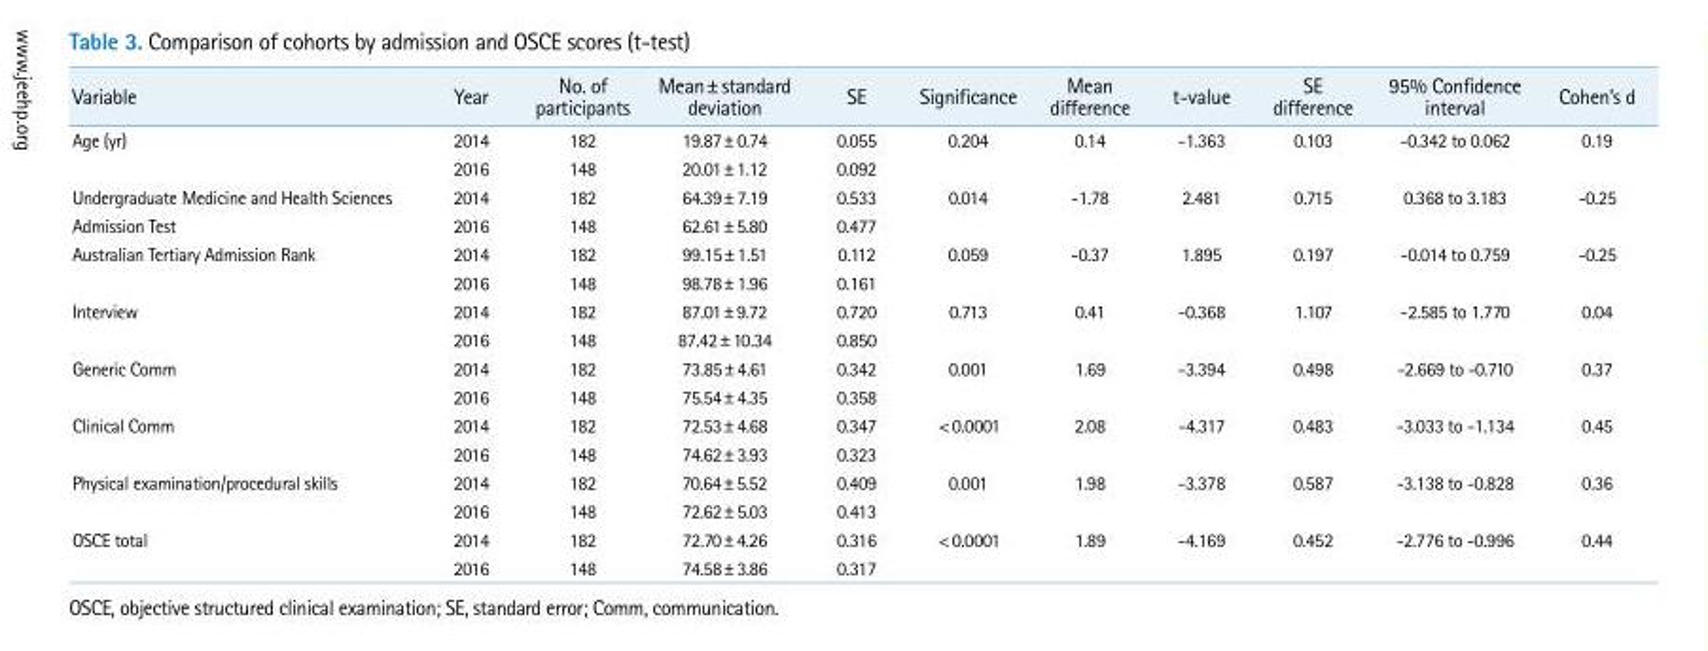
<table><thead><tr><td>Variable</td><td>Year</td><td>No. of participants</td><td>Mean±standard deviation</td><td>SE</td><td>Significance</td><td>Mean difference</td><td>t-value</td><td>SE difference</td><td>95% Confidence interval</td><td>Cohen’s d</td></tr></thead><tbody><tr><td rowspan="2">Age (yr)</td><td>2014</td><td>182</td><td>19.87±0.74</td><td>0.055</td><td>0.204</td><td>0.14</td><td>-1.363</td><td>0.103</td><td>-0.342 to 0.062</td><td>0.19</td></tr><tr><td>2016</td><td>148</td><td>20.01±1.12</td><td>0.092</td><td></td><td></td><td></td><td></td><td></td><td></td></tr><tr><td>Undergraduate Medicine and Health Sciences</td><td>2014</td><td>182</td><td>64.39±7.19</td><td>0.533</td><td>0.014</td><td>-1.78</td><td>2.481</td><td>0.715</td><td>0.368 to 3.183</td><td>-0.25</td></tr><tr><td>Admission Test</td><td>2016</td><td>148</td><td>62.61±5.80</td><td>0.477</td><td></td><td></td><td></td><td></td><td></td><td></td></tr><tr><td rowspan="2">Australian Tertiary Admission Rank</td><td>2014</td><td>182</td><td>99.15±1.51</td><td>0.112</td><td>0.059</td><td>-0.37</td><td>1.895</td><td>0.197</td><td>-0.014 to 0.759</td><td>-0.25</td></tr><tr><td>2016</td><td>148</td><td>98.78±1.96</td><td>0.161</td><td></td><td></td><td></td><td></td><td></td><td></td></tr><tr><td rowspan="2">Interview</td><td>2014</td><td>182</td><td>87.01±9.72</td><td>0.720</td><td>0.713</td><td>0.41</td><td>-0.368</td><td>1.107</td><td>-2.585 to 1.770</td><td>0.04</td></tr><tr><td>2016</td><td>148</td><td>87.42±10.34</td><td>0.850</td><td></td><td></td><td></td><td></td><td></td><td></td></tr><tr><td rowspan="2">Generic Comm</td><td>2014</td><td>182</td><td>73.85±4.61</td><td>0.342</td><td>0.001</td><td>1.69</td><td>-3.394</td><td>0.498</td><td>-2.669 to -0.710</td><td>0.37</td></tr><tr><td>2016</td><td>148</td><td>75.54±4.35</td><td>0.358</td><td></td><td></td><td></td><td></td><td></td><td></td></tr><tr><td rowspan="2">Clinical Comm</td><td>2014</td><td>182</td><td>72.53±4.68</td><td>0.347</td><td>&lt;0.0001</td><td>2.08</td><td>-4.317</td><td>0.483</td><td>-3.033 to -1.134</td><td>0.45</td></tr><tr><td>2016</td><td>148</td><td>74.62±3.93</td><td>0.323</td><td></td><td></td><td></td><td></td><td></td><td></td></tr><tr><td rowspan="2">Physical examination/procedural skills</td><td>2014</td><td>182</td><td>70.64±5.52</td><td>0.409</td><td>0.001</td><td>1.98</td><td>-3.378</td><td>0.587</td><td>-3.138 to -0.828</td><td>0.36</td></tr><tr><td>2016</td><td>148</td><td>72.62±5.03</td><td>0.413</td><td></td><td></td><td></td><td></td><td></td><td></td></tr><tr><td rowspan="2">OSCE total</td><td>2014</td><td>182</td><td>72.70±4.26</td><td>0.316</td><td>&lt;0.0001</td><td>1.89</td><td>-4.169</td><td>0.452</td><td>-2.776 to -0.996</td><td>0.44</td></tr><tr><td>2016</td><td>148</td><td>74.58±3.86</td><td>0.317</td><td></td><td></td><td></td><td></td><td></td><td></td></tr></tbody></table>